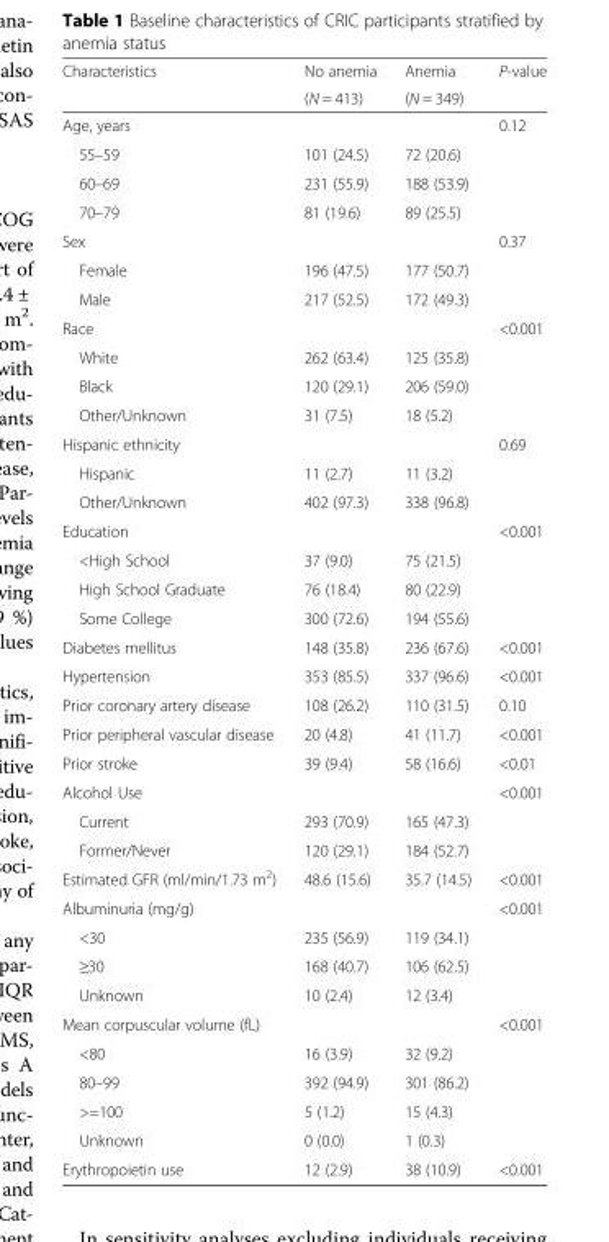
<table><thead><tr><td rowspan="2">Characteristics</td><td rowspan="2">No anemia (N = 413)</td><td rowspan="2">Anemia (N = 349)</td><td rowspan="2">P-value</td></tr><tr></tr></thead><tbody><tr><td>Age, years</td><td></td><td></td><td>0.12</td></tr><tr><td>55–59</td><td>101 (24.5)</td><td>72 (20.6)</td><td></td></tr><tr><td>60–69</td><td>231 (55.9)</td><td>188 (53.9)</td><td></td></tr><tr><td>70–79</td><td>81 (19.6)</td><td>89 (25.5)</td><td></td></tr><tr><td>Sex</td><td></td><td></td><td>0.37</td></tr><tr><td>Female</td><td>196 (47.5)</td><td>177 (50.7)</td><td></td></tr><tr><td>Male</td><td>217 (52.5)</td><td>172 (49.3)</td><td></td></tr><tr><td>Race</td><td></td><td></td><td>&lt;0.001</td></tr><tr><td>White</td><td>262 (63.4)</td><td>125 (35.8)</td><td></td></tr><tr><td>Black</td><td>120 (29.1)</td><td>206 (59.0)</td><td></td></tr><tr><td>Other/Unknown</td><td>31 (7.5)</td><td>18 (5.2)</td><td></td></tr><tr><td>Hispanic ethnicity</td><td></td><td></td><td>0.69</td></tr><tr><td>Hispanic</td><td>11 (2.7)</td><td>11 (3.2)</td><td></td></tr><tr><td>Other/Unknown</td><td>402 (97.3)</td><td>338 (96.8)</td><td></td></tr><tr><td>Education</td><td></td><td></td><td>&lt;0.001</td></tr><tr><td>&lt;High School</td><td>37 (9.0)</td><td>75 (21.5)</td><td></td></tr><tr><td>High School Graduate</td><td>76 (18.4)</td><td>80 (22.9)</td><td></td></tr><tr><td>Some College</td><td>300 (72.6)</td><td>194 (55.6)</td><td></td></tr><tr><td>Diabetes mellitus</td><td>148 (35.8)</td><td>236 (67.6)</td><td>&lt;0.001</td></tr><tr><td>Hypertension</td><td>353 (85.5)</td><td>337 (96.6)</td><td>&lt;0.001</td></tr><tr><td>Prior coronary artery disease</td><td>108 (26.2)</td><td>110 (31.5)</td><td>0.10</td></tr><tr><td>Prior peripheral vascular disease</td><td>20 (4.8)</td><td>41 (11.7)</td><td>&lt;0.001</td></tr><tr><td>Prior stroke</td><td>39 (9.4)</td><td>58 (16.6)</td><td>&lt;0.01</td></tr><tr><td>Alcohol Use</td><td></td><td></td><td>&lt;0.001</td></tr><tr><td>Current</td><td>293 (70.9)</td><td>165 (47.3)</td><td></td></tr><tr><td>Former/Never</td><td>120 (29.1)</td><td>184 (52.7)</td><td></td></tr><tr><td>Estimated GFR (ml/min/1.73 m<sup>2</sup>)</td><td>48.6 (15.6)</td><td>35.7 (14.5)</td><td>&lt;0.001</td></tr><tr><td>Albuminuria (mg/g)</td><td></td><td></td><td>&lt;0.001</td></tr><tr><td>&lt;30</td><td>235 (56.9)</td><td>119 (34.1)</td><td></td></tr><tr><td>≥30</td><td>168 (40.7)</td><td>106 (62.5)</td><td></td></tr><tr><td>Unknown</td><td>10 (2.4)</td><td>12 (3.4)</td><td></td></tr><tr><td>Mean corpuscular volume (fL)</td><td></td><td></td><td>&lt;0.001</td></tr><tr><td>&lt;80</td><td>16 (3.9)</td><td>32 (9.2)</td><td></td></tr><tr><td>80–99</td><td>392 (94.9)</td><td>301 (86.2)</td><td></td></tr><tr><td>&gt;=100</td><td>5 (1.2)</td><td>15 (4.3)</td><td></td></tr><tr><td>Unknown</td><td>0 (0.0)</td><td>1 (0.3)</td><td></td></tr><tr><td>Erythropoietin use</td><td>12 (2.9)</td><td>38 (10.9)</td><td>&lt;0.001</td></tr></tbody></table>